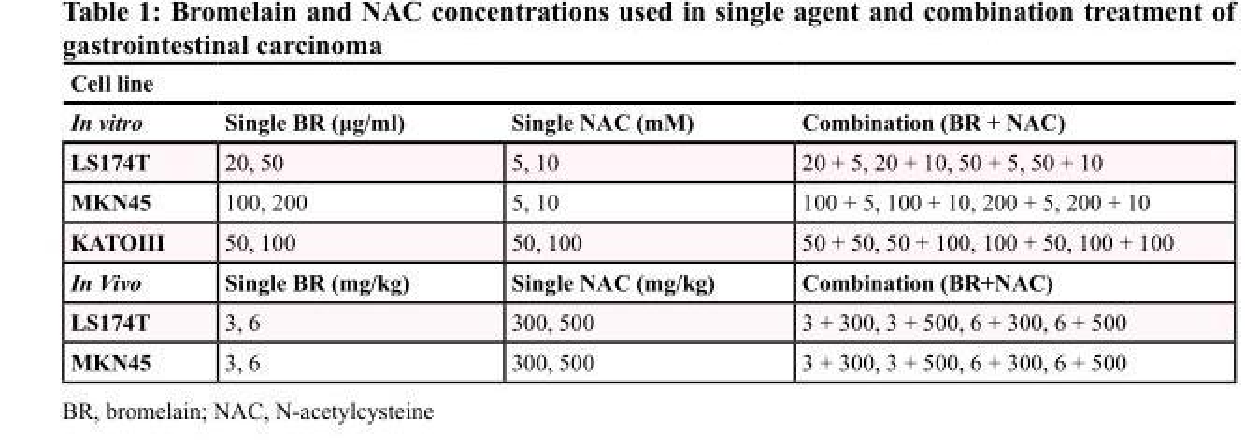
<table><thead><tr><td colspan="4">Cell line</td></tr><tr><td>In vitro</td><td>Single BR (μg/ml)</td><td>Single NAC (mM)</td><td>Combination (BR + NAC)</td></tr></thead><tbody><tr><td>LS174T</td><td>20, 50</td><td>5, 10</td><td>20 + 5, 20 + 10, 50 + 5, 50 + 10</td></tr><tr><td>MKN45</td><td>100, 200</td><td>5, 10</td><td>100 + 5, 100 + 10, 200 + 5, 200 + 10</td></tr><tr><td>KATOIII</td><td>50, 100</td><td>50, 100</td><td>50 + 50, 50 + 100, 100 + 50, 100 + 100</td></tr><tr><td>In Vivo</td><td>Single BR (mg/kg)</td><td>Single NAC (mg/kg)</td><td>Combination (BR+NAC)</td></tr><tr><td>LS174T</td><td>3, 6</td><td>300, 500</td><td>3 + 300, 3 + 500, 6 + 300, 6 + 500</td></tr><tr><td>MKN45</td><td>3, 6</td><td>300, 500</td><td>3 + 300, 3 + 500, 6 + 300, 6 + 500</td></tr></tbody></table>